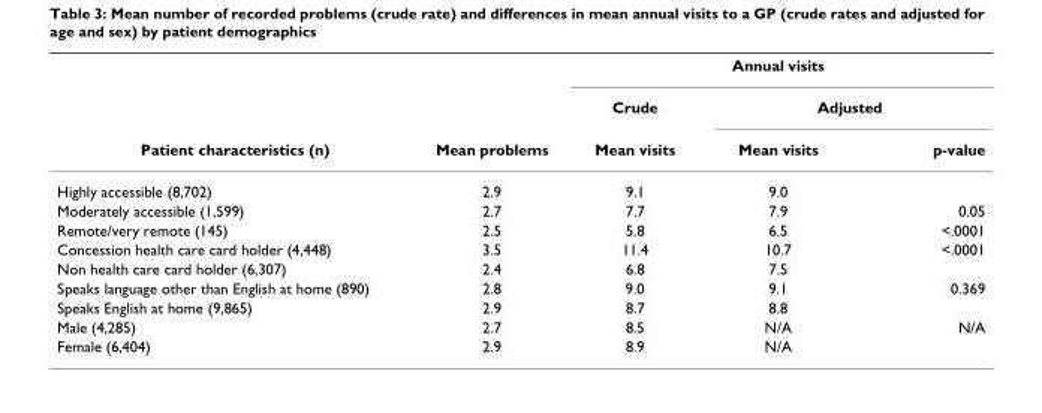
<table><thead><tr><td rowspan="3">Patient characteristics (n)</td><td rowspan="3">Mean problems</td><td colspan="3">Annual visits</td></tr><tr><td rowspan="2">Crude Mean visits</td><td colspan="2">Adjusted</td></tr><tr><td>Mean visits</td><td>p-value</td></tr></thead><tbody><tr><td>Highly accessible (8,702)</td><td>2.9</td><td>9.1</td><td>9.0</td><td></td></tr><tr><td>Moderately accessible (1,599)</td><td>2.7</td><td>7.7</td><td>7.9</td><td>0.05</td></tr><tr><td>Remote/very remote (145)</td><td>2.5</td><td>5.8</td><td>6.5</td><td>&lt;.0001</td></tr><tr><td>Concession health care card holder (4,448)</td><td>3.5</td><td>11.4</td><td>10.7</td><td>&lt;.0001</td></tr><tr><td>Non health care card holder (6,307)</td><td>2.4</td><td>6.8</td><td>7.5</td><td></td></tr><tr><td>Speaks language other than English at home (890)</td><td>2.8</td><td>9.0</td><td>9.1</td><td>0.369</td></tr><tr><td>Speaks English at home (9,865)</td><td>2.9</td><td>8.7</td><td>8.8</td><td></td></tr><tr><td>Male (4,285)</td><td>2.7</td><td>8.5</td><td>N/A</td><td>N/A</td></tr><tr><td>Female (6,404)</td><td>2.9</td><td>8.9</td><td>N/A</td><td></td></tr></tbody></table>